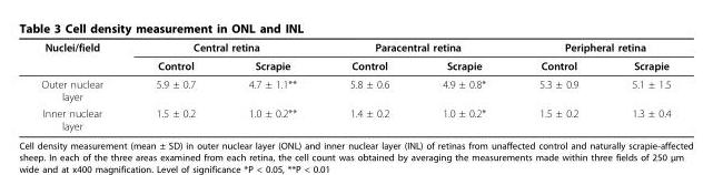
<table><thead><tr><td rowspan="2">Nuclei/field</td><td colspan="2">Central retina</td><td colspan="2">Paracentral retina</td><td colspan="2">Peripheral retina</td></tr><tr><td>Control</td><td>Scrapie</td><td>Control</td><td>Scrapie</td><td>Control</td><td>Scrapie</td></tr></thead><tbody><tr><td>Outer nuclear layer</td><td>5.9 ± 0.7</td><td>4.7 ± 1.1**</td><td>5.8 ± 0.6</td><td>4.9 ± 0.8*</td><td>5.3 ± 0.9</td><td>5.1 ± 1.5</td></tr><tr><td>Inner nuclear layer</td><td>1.5 ± 0.2</td><td>1.0 ± 0.2**</td><td>1.4 ± 0.2</td><td>1.0 ± 0.2*</td><td>1.5 ± 0.2</td><td>1.3 ± 0.4</td></tr></tbody></table>